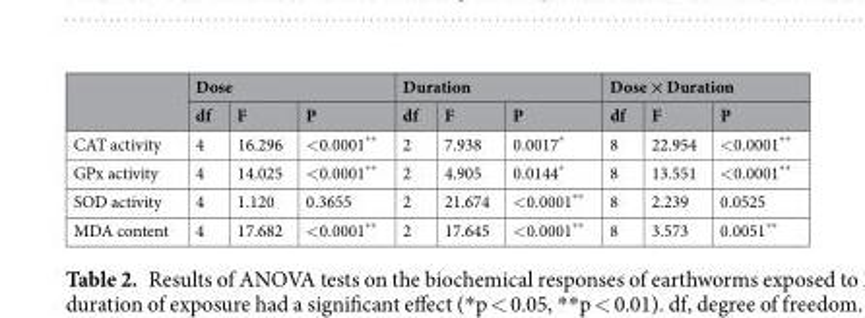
<table><thead><tr><td rowspan="2"></td><td colspan="3">Dose</td><td colspan="3">Duration</td><td colspan="3">Dose × Duration</td></tr><tr><td>df</td><td>F</td><td>P</td><td>df</td><td>F</td><td>P</td><td>df</td><td>F</td><td>P</td></tr></thead><tbody><tr><td>CAT activity</td><td>4</td><td>16.296</td><td>&lt;0.0001**</td><td>2</td><td>7.938</td><td>0.0017*</td><td>8</td><td>22.954</td><td>&lt;0.0001**</td></tr><tr><td>GPx activity</td><td>4</td><td>14.025</td><td>&lt;0.0001**</td><td>2</td><td>4.905</td><td>0.0144*</td><td>8</td><td>13.551</td><td>&lt;0.0001**</td></tr><tr><td>SOD activity</td><td>4</td><td>1.120</td><td>0.3655</td><td>2</td><td>21.674</td><td>&lt;0.0001**</td><td>8</td><td>2.239</td><td>0.0525</td></tr><tr><td>MDA content</td><td>4</td><td>17.682</td><td>&lt;0.0001**</td><td>2</td><td>17.645</td><td>&lt;0.0001**</td><td>8</td><td>3.573</td><td>0.0051**</td></tr></tbody></table>